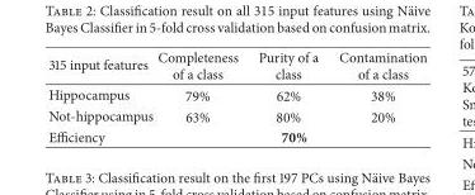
<table><thead><tr><td>315 input features</td><td>Completeness of a class</td><td>Purity of a class</td><td>Contamination of a class</td></tr></thead><tbody><tr><td>Hippocampus</td><td>79%</td><td>62%</td><td>38%</td></tr><tr><td>Not-hippocampus</td><td>63%</td><td>80%</td><td>20%</td></tr><tr><td>Efficiency</td><td colspan="3">70%</td></tr></tbody></table>